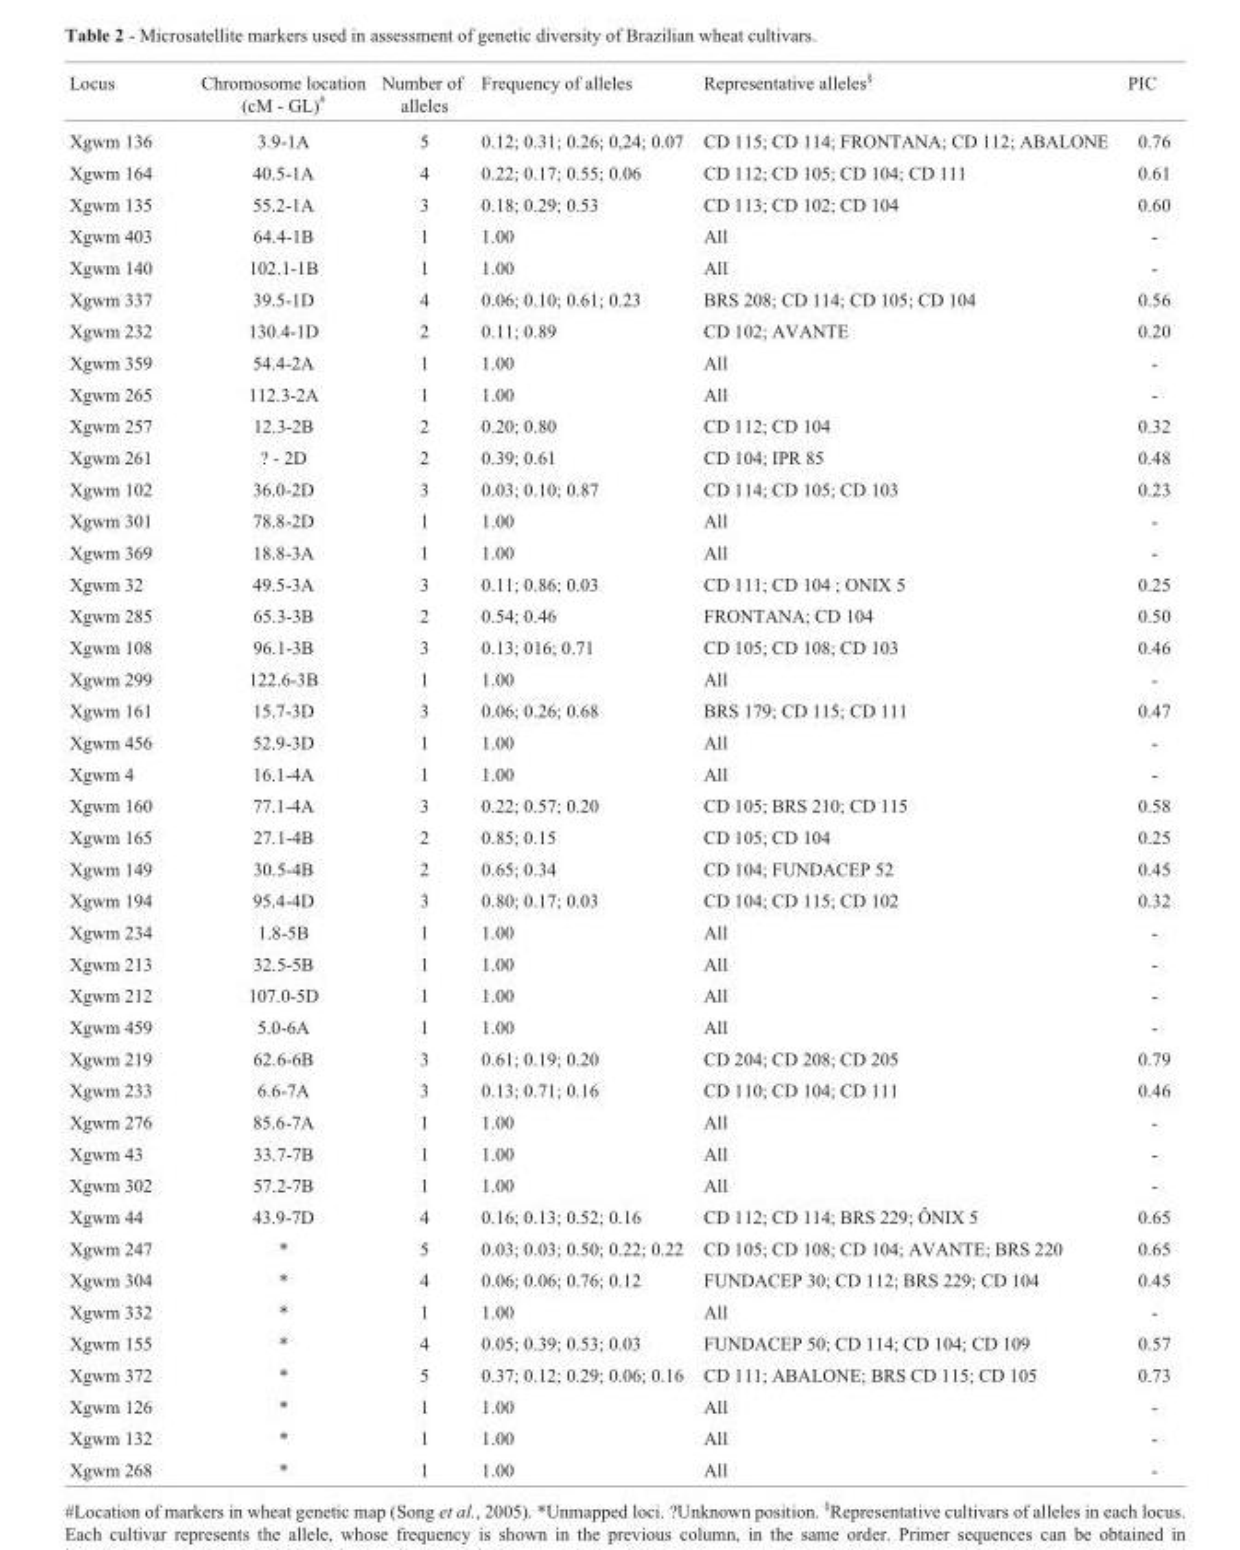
<table><thead><tr><td>Locus</td><td>Chromosome location (cM - GL)<sup>#</sup></td><td>Number of alleles</td><td>Frequency of alleles</td><td>Representative alleles<sup>§</sup></td><td>PIC</td></tr></thead><tbody><tr><td>Xgwm 136</td><td>3.9-1A</td><td>5</td><td>0.12; 0.31; 0.26; 0,24; 0.07</td><td>CD 115; CD 114; FRONTANA; CD 112; ABALONE</td><td>0.76</td></tr><tr><td>Xgwm 164</td><td>40.5-1A</td><td>4</td><td>0.22; 0.17; 0.55; 0.06</td><td>CD 112; CD 105; CD 104; CD 111</td><td>0.61</td></tr><tr><td>Xgwm 135</td><td>55.2-1A</td><td>3</td><td>0.18; 0.29; 0.53</td><td>CD 113; CD 102; CD 104</td><td>0.60</td></tr><tr><td>Xgwm 403</td><td>64.4-1B</td><td>1</td><td>1.00</td><td>All</td><td>-</td></tr><tr><td>Xgwm 140</td><td>102.1-1B</td><td>1</td><td>1.00</td><td>All</td><td>-</td></tr><tr><td>Xgwm 337</td><td>39.5-1D</td><td>4</td><td>0.06; 0.10; 0.61; 0.23</td><td>BRS 208; CD 114; CD 105; CD 104</td><td>0.56</td></tr><tr><td>Xgwm 232</td><td>130.4-1D</td><td>2</td><td>0.11; 0.89</td><td>CD 102; AVANTE</td><td>0.20</td></tr><tr><td>Xgwm 359</td><td>54.4-2A</td><td>1</td><td>1.00</td><td>All</td><td>-</td></tr><tr><td>Xgwm 265</td><td>112.3-2A</td><td>1</td><td>1.00</td><td>All</td><td>-</td></tr><tr><td>Xgwm 257</td><td>12.3-2B</td><td>2</td><td>0.20; 0.80</td><td>CD 112; CD 104</td><td>0.32</td></tr><tr><td>Xgwm 261</td><td>? - 2D</td><td>2</td><td>0.39; 0.61</td><td>CD 104; IPR 85</td><td>0.48</td></tr><tr><td>Xgwm 102</td><td>36.0-2D</td><td>3</td><td>0.03; 0.10; 0.87</td><td>CD 114; CD 105; CD 103</td><td>0.23</td></tr><tr><td>Xgwm 301</td><td>78.8-2D</td><td>1</td><td>1.00</td><td>All</td><td>-</td></tr><tr><td>Xgwm 369</td><td>18.8-3A</td><td>1</td><td>1.00</td><td>All</td><td>-</td></tr><tr><td>Xgwm 32</td><td>49.5-3A</td><td>3</td><td>0.11; 0.86; 0.03</td><td>CD 111; CD 104 ; ONIX 5</td><td>0.25</td></tr><tr><td>Xgwm 285</td><td>65.3-3B</td><td>2</td><td>0.54; 0.46</td><td>FRONTANA; CD 104</td><td>0.50</td></tr><tr><td>Xgwm 108</td><td>96.1-3B</td><td>3</td><td>0.13; 016; 0.71</td><td>CD 105; CD 108; CD 103</td><td>0.46</td></tr><tr><td>Xgwm 299</td><td>122.6-3B</td><td>1</td><td>1.00</td><td>All</td><td>-</td></tr><tr><td>Xgwm 161</td><td>15.7-3D</td><td>3</td><td>0.06; 0.26; 0.68</td><td>BRS 179; CD 115; CD 111</td><td>0.47</td></tr><tr><td>Xgwm 456</td><td>52.9-3D</td><td>1</td><td>1.00</td><td>All</td><td>-</td></tr><tr><td>Xgwm 4</td><td>16.1-4A</td><td>1</td><td>1.00</td><td>All</td><td>-</td></tr><tr><td>Xgwm 160</td><td>77.1-4A</td><td>3</td><td>0.22; 0.57; 0.20</td><td>CD 105; BRS 210; CD 115</td><td>0.58</td></tr><tr><td>Xgwm 165</td><td>27.1-4B</td><td>2</td><td>0.85; 0.15</td><td>CD 105; CD 104</td><td>0.25</td></tr><tr><td>Xgwm 149</td><td>30.5-4B</td><td>2</td><td>0.65; 0.34</td><td>CD 104; FUNDACEP 52</td><td>0.45</td></tr><tr><td>Xgwm 194</td><td>95.4-4D</td><td>3</td><td>0.80; 0.17; 0.03</td><td>CD 104; CD 115; CD 102</td><td>0.32</td></tr><tr><td>Xgwm 234</td><td>1.8-5B</td><td>1</td><td>1.00</td><td>All</td><td>-</td></tr><tr><td>Xgwm 213</td><td>32.5-5B</td><td>1</td><td>1.00</td><td>All</td><td>-</td></tr><tr><td>Xgwm 212</td><td>107.0-5D</td><td>1</td><td>1.00</td><td>All</td><td>-</td></tr><tr><td>Xgwm 459</td><td>5.0-6A</td><td>1</td><td>1.00</td><td>All</td><td>-</td></tr><tr><td>Xgwm 219</td><td>62.6-6B</td><td>3</td><td>0.61; 0.19; 0.20</td><td>CD 204; CD 208; CD 205</td><td>0.79</td></tr><tr><td>Xgwm 233</td><td>6.6-7A</td><td>3</td><td>0.13; 0.71; 0.16</td><td>CD 110; CD 104; CD 111</td><td>0.46</td></tr><tr><td>Xgwm 276</td><td>85.6-7A</td><td>1</td><td>1.00</td><td>All</td><td>-</td></tr><tr><td>Xgwm 43</td><td>33.7-7B</td><td>1</td><td>1.00</td><td>All</td><td>-</td></tr><tr><td>Xgwm 302</td><td>57.2-7B</td><td>1</td><td>1.00</td><td>All</td><td>-</td></tr><tr><td>Xgwm 44</td><td>43.9-7D</td><td>4</td><td>0.16; 0.13; 0.52; 0.16</td><td>CD 112; CD 114; BRS 229; ÔNIX 5</td><td>0.65</td></tr><tr><td>Xgwm 247</td><td>*</td><td>5</td><td>0.03; 0.03; 0.50; 0.22; 0.22</td><td>CD 105; CD 108; CD 104; AVANTE; BRS 220</td><td>0.65</td></tr><tr><td>Xgwm 304</td><td>*</td><td>4</td><td>0.06; 0.06; 0.76; 0.12</td><td>FUNDACEP 30; CD 112; BRS 229; CD 104</td><td>0.45</td></tr><tr><td>Xgwm 332</td><td>*</td><td>1</td><td>1.00</td><td>All</td><td>-</td></tr><tr><td>Xgwm 155</td><td>*</td><td>4</td><td>0.05; 0.39; 0.53; 0.03</td><td>FUNDACEP 50; CD 114; CD 104; CD 109</td><td>0.57</td></tr><tr><td>Xgwm 372</td><td>*</td><td>5</td><td>0.37; 0.12; 0.29; 0.06; 0.16</td><td>CD 111; ABALONE; BRS CD 115; CD 105</td><td>0.73</td></tr><tr><td>Xgwm 126</td><td>*</td><td>1</td><td>1.00</td><td>All</td><td>-</td></tr><tr><td>Xgwm 132</td><td>*</td><td>1</td><td>1.00</td><td>All</td><td>-</td></tr><tr><td>Xgwm 268</td><td>*</td><td>1</td><td>1.00</td><td>All</td><td>-</td></tr></tbody></table>